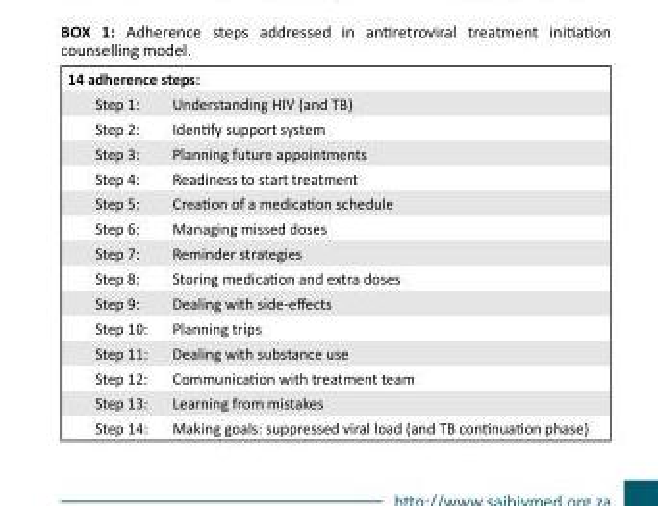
<table><thead><tr><td colspan="2">14 adherence steps:</td></tr><tr><td>Step 1:</td><td>Understanding HIV (and TB)</td></tr></thead><tbody><tr><td>Step 2:</td><td>Identify support system</td></tr><tr><td>Step 3:</td><td>Planning future appointments</td></tr><tr><td>Step 4:</td><td>Readiness to start treatment</td></tr><tr><td>Step 5:</td><td>Creation of a medication schedule</td></tr><tr><td>Step 6:</td><td>Managing missed doses</td></tr><tr><td>Step 7:</td><td>Reminder strategies</td></tr><tr><td>Step 8:</td><td>Storing medication and extra doses</td></tr><tr><td>Step 9:</td><td>Dealing with side-effects</td></tr><tr><td>Step 10:</td><td>Planning trips</td></tr><tr><td>Step 11:</td><td>Dealing with substance use</td></tr><tr><td>Step 12:</td><td>Communication with treatment team</td></tr><tr><td>Step 13:</td><td>Learning from mistakes</td></tr><tr><td>Step 14:</td><td>Making goals: suppressed viral load (and TB continuation phase)</td></tr></tbody></table>